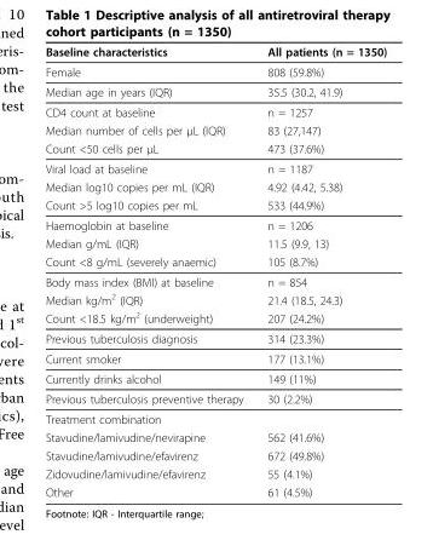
<table><thead><tr><td>Baseline characteristics</td><td>All patients (n = 1350)</td></tr></thead><tbody><tr><td>Female</td><td>808 (59.8%)</td></tr><tr><td>Median age in years (IQR)</td><td>35.5 (30.2, 41.9)</td></tr><tr><td>CD4 count at baseline</td><td>n = 1257</td></tr><tr><td>Median number of cells per μL (IQR)</td><td>83 (27,147)</td></tr><tr><td>Count &lt;50 cells per μL</td><td>473 (37.6%)</td></tr><tr><td>Viral load at baseline</td><td>n = 1187</td></tr><tr><td>Median log10 copies per mL (IQR)</td><td>4.92 (4.42, 5.38)</td></tr><tr><td>Count &gt;5 log10 copies per mL</td><td>533 (44.9%)</td></tr><tr><td>Haemoglobin at baseline</td><td>n = 1206</td></tr><tr><td>Median g/mL (IQR)</td><td>11.5 (9.9, 13)</td></tr><tr><td>Count &lt;8 g/mL (severely anaemic)</td><td>105 (8.7%)</td></tr><tr><td>Body mass index (BMI) at baseline</td><td>n = 854</td></tr><tr><td>Median kg/m<sup>2</sup> (IQR)</td><td>21.4 (18.5, 24.3)</td></tr><tr><td>Count &lt;18.5 kg/m<sup>2</sup> (underweight)</td><td>207 (24.2%)</td></tr><tr><td>Previous tuberculosis diagnosis</td><td>314 (23.3%)</td></tr><tr><td>Current smoker</td><td>177 (13.1%)</td></tr><tr><td>Currently drinks alcohol</td><td>149 (11%)</td></tr><tr><td>Previous tuberculosis preventive therapy</td><td>30 (2.2%)</td></tr><tr><td colspan="2">Treatment combination</td></tr><tr><td>Stavudine/lamivudine/nevirapine</td><td>562 (41.6%)</td></tr><tr><td>Stavudine/lamivudine/efavirenz</td><td>672 (49.8%)</td></tr><tr><td>Zidovudine/lamivudine/efavirenz</td><td>55 (4.1%)</td></tr><tr><td>Other</td><td>61 (4.5%)</td></tr></tbody></table>